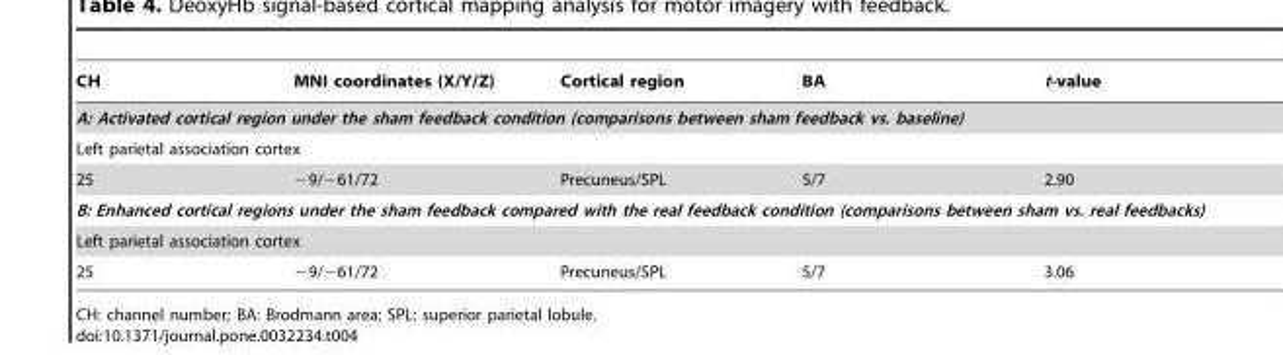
<table><thead><tr><td>CH</td><td>MNI coordinates (X/Y/Z)</td><td>Cortical region</td><td>BA</td><td>t-value</td></tr></thead><tbody><tr><td colspan="5">A: Activated cortical region under the sham feedback condition (comparisons between sham feedback vs. baseline)</td></tr><tr><td colspan="5">Left parietal association cortex</td></tr><tr><td>25</td><td>−9/−61/72</td><td>Precuneus/SPL</td><td>5/7</td><td>2.90</td></tr><tr><td colspan="5">B: Enhanced cortical regions under the sham feedback compared with the real feedback condition (comparisons between sham vs. real feedbacks)</td></tr><tr><td colspan="5">Left parietal association cortex</td></tr><tr><td>25</td><td>−9/−61/72</td><td>Precuneus/SPL</td><td>5/7</td><td>3.06</td></tr></tbody></table>